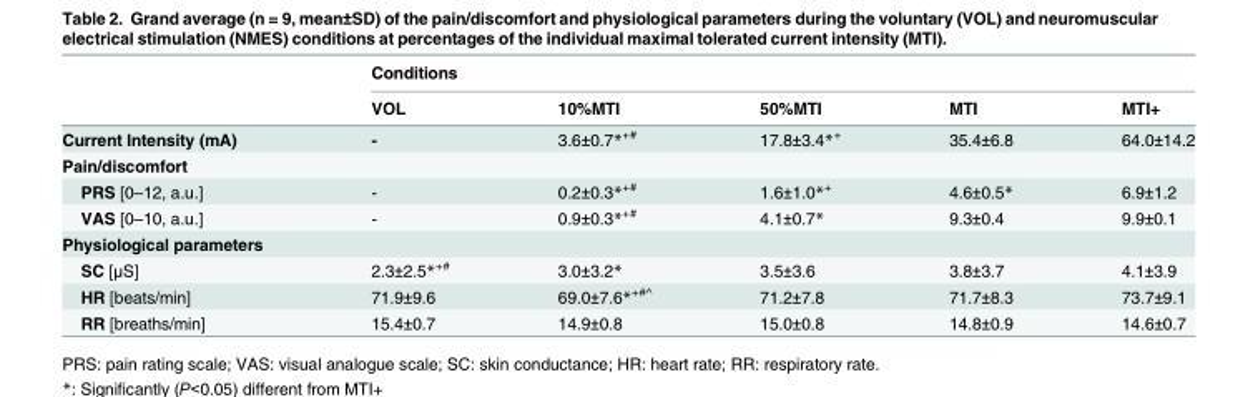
<table><thead><tr><td rowspan="2"></td><td colspan="5">Conditions</td></tr><tr><td>VOL</td><td>10%MTI</td><td>50%MTI</td><td>MTI</td><td>MTI+</td></tr></thead><tbody><tr><td>Current Intensity (mA)</td><td>-</td><td>3.6±0.7*<sup>+#</sup></td><td>17.8±3.4*<sup>+</sup></td><td>35.4±6.8</td><td>64.0±14.2</td></tr><tr><td colspan="6">Pain/discomfort</td></tr><tr><td>PRS [0–12, a.u.]</td><td>-</td><td>0.2±0.3*<sup>+#</sup></td><td>1.6±1.0*<sup>+</sup></td><td>4.6±0.5*</td><td>6.9±1.2</td></tr><tr><td>VAS [0–10, a.u.]</td><td>-</td><td>0.9±0.3*<sup>+#</sup></td><td>4.1±0.7*</td><td>9.3±0.4</td><td>9.9±0.1</td></tr><tr><td colspan="6">Physiological parameters</td></tr><tr><td>SC [μS]</td><td>2.3±2.5*<sup>+#</sup></td><td>3.0±3.2*</td><td>3.5±3.6</td><td>3.8±3.7</td><td>4.1±3.9</td></tr><tr><td>HR [beats/min]</td><td>71.9±9.6</td><td>69.0±7.6*<sup>+#^</sup></td><td>71.2±7.8</td><td>71.7±8.3</td><td>73.7±9.1</td></tr><tr><td>RR [breaths/min]</td><td>15.4±0.7</td><td>14.9±0.8</td><td>15.0±0.8</td><td>14.8±0.9</td><td>14.6±0.7</td></tr></tbody></table>